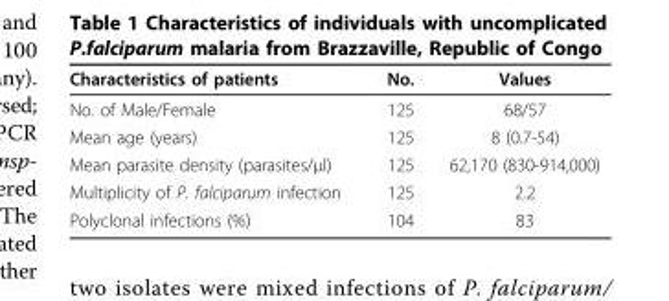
<table><thead><tr><td>Characteristics of patients</td><td>No.</td><td>Values</td></tr></thead><tbody><tr><td>No. of Male/Female</td><td>125</td><td>68/57</td></tr><tr><td>Mean age (years)</td><td>125</td><td>8 (0.7-54)</td></tr><tr><td>Mean parasite density (parasites/μl)</td><td>125</td><td>62,170 (830-914,000)</td></tr><tr><td>Multiplicity of P. falciparum infection</td><td>125</td><td>2.2</td></tr><tr><td>Polyclonal infections (%)</td><td>104</td><td>83</td></tr></tbody></table>